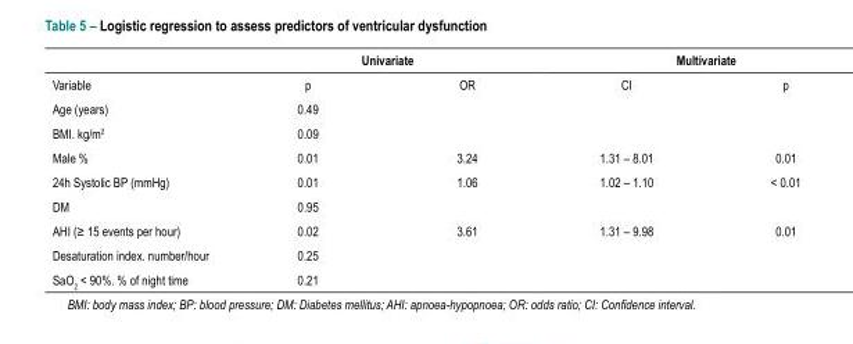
<table><thead><tr><td rowspan="2">Variable</td><td colspan="2">Univariate</td><td colspan="2">Multivariate</td></tr><tr><td>p</td><td>OR</td><td>CI</td><td>p</td></tr></thead><tbody><tr><td>Age (years)</td><td>0.49</td><td></td><td></td><td></td></tr><tr><td>BMI. kg/m<sup>2</sup></td><td>0.09</td><td></td><td></td><td></td></tr><tr><td>Male %</td><td>0.01</td><td>3.24</td><td>1.31 – 8.01</td><td>0.01</td></tr><tr><td>24h Systolic BP (mmHg)</td><td>0.01</td><td>1.06</td><td>1.02 – 1.10</td><td>&lt; 0.01</td></tr><tr><td>DM</td><td>0.95</td><td></td><td></td><td></td></tr><tr><td>AHI (≥ 15 events per hour)</td><td>0.02</td><td>3.61</td><td>1.31 – 9.98</td><td>0.01</td></tr><tr><td>Desaturation index. number/hour</td><td>0.25</td><td></td><td></td><td></td></tr><tr><td>SaO<sub>2</sub> &lt; 90%. % of night time</td><td>0.21</td><td></td><td></td><td></td></tr></tbody></table>